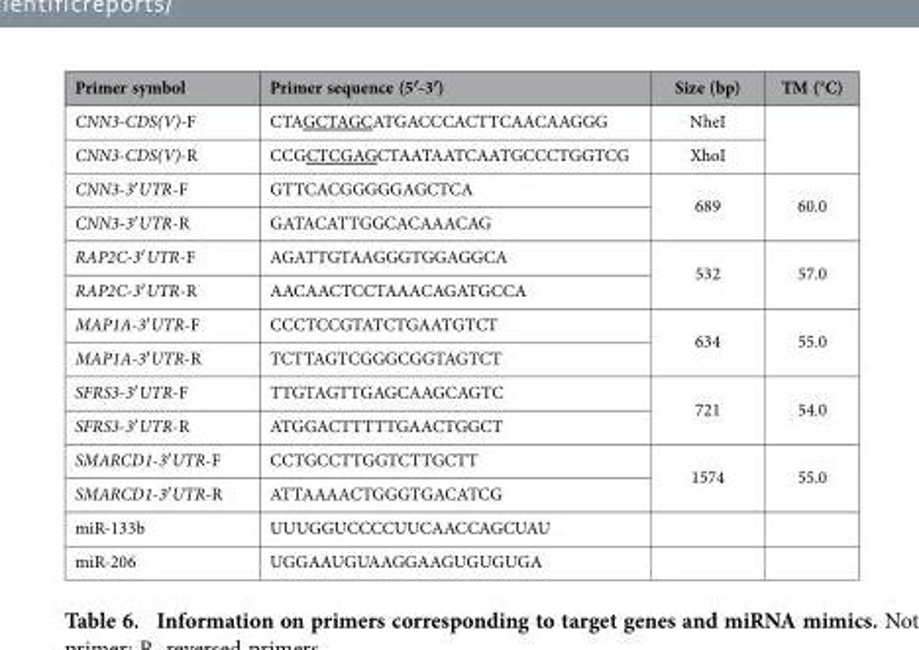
<table><thead><tr><td>Primer symbol</td><td>Primer sequence (5′-3′)</td><td>Size (bp)</td><td>TM (°C)</td></tr></thead><tbody><tr><td>CNN3-CDS(V)-F</td><td>CTAGCTAGCATGACCCACTTCAACAAGGG</td><td>NheI</td><td rowspan="2"></td></tr><tr><td>CNN3-CDS(V)-R</td><td>CCGCTCGAGCTAATAATCAATGCCCTGGTCG</td><td>XhoI</td></tr><tr><td>CNN3-3′ UTR-F</td><td>GTTCACGGGGGAGCTCA</td><td rowspan="2">689</td><td rowspan="2">60.0</td></tr><tr><td>CNN3-3′ UTR-R</td><td>GATACATTGGCACAAACAG</td></tr><tr><td>RAP2C-3′ UTR-F</td><td>AGATTGTAAGGGTGGAGGCA</td><td rowspan="2">532</td><td rowspan="2">57.0</td></tr><tr><td>RAP2C-3′ UTR-R</td><td>AACAACTCCTAAACAGATGCCA</td></tr><tr><td>MAP1A-3′ UTR-F</td><td>CCCTCCGTATCTGAATGTCT</td><td rowspan="2">634</td><td rowspan="2">55.0</td></tr><tr><td>MAP1A-3′ UTR-R</td><td>TCTTAGTCGGGCGGTAGTCT</td></tr><tr><td>SFRS3-3′ UTR-F</td><td>TTGTAGTTGAGCAAGCAGTC</td><td rowspan="2">721</td><td rowspan="2">54.0</td></tr><tr><td>SFRS3-3′ UTR-R</td><td>ATGGACTTTTTGAACTGGCT</td></tr><tr><td>SMARCD1-3′ UTR-F</td><td>CCTGCCTTGGTCTTGCTT</td><td rowspan="2">1574</td><td rowspan="2">55.0</td></tr><tr><td>SMARCD1-3′ UTR-R</td><td>ATTAAAACTGGGTGACATCG</td></tr><tr><td>miR-133b</td><td>UUUGGUCCCCUUCAACCAGCUAU</td><td></td><td></td></tr><tr><td>miR-206</td><td>UGGAAUGUAAGGAAGUGUGUGA</td><td></td><td></td></tr></tbody></table>